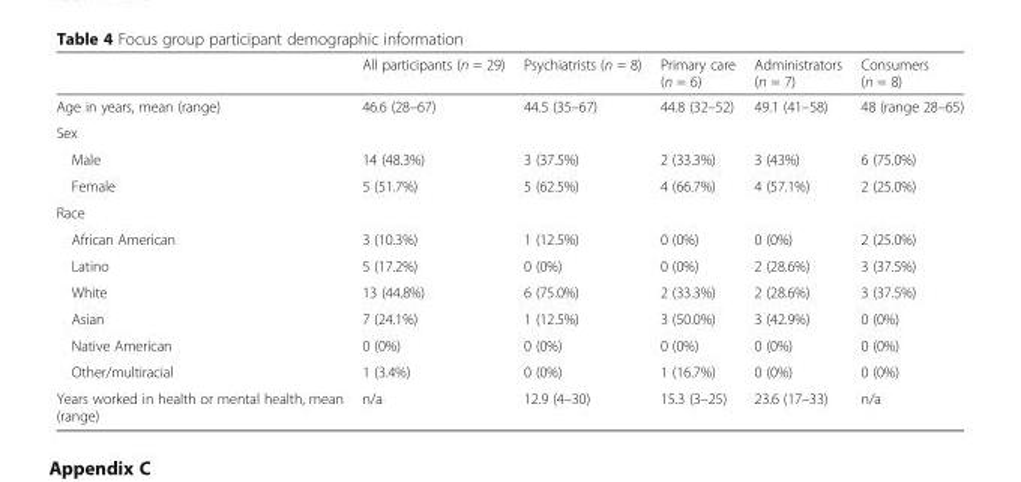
<table><thead><tr><td></td><td>All participants (n = 29)</td><td>Psychiatrists (n = 8)</td><td>Primary care (n = 6)</td><td>Administrators (n = 7)</td><td>Consumers (n = 8)</td></tr></thead><tbody><tr><td>Age in years, mean (range)</td><td>46.6 (28–67)</td><td>44.5 (35–67)</td><td>44.8 (32–52)</td><td>49.1 (41–58)</td><td>48 (range 28–65)</td></tr><tr><td colspan="6">Sex</td></tr><tr><td>Male</td><td>14 (48.3%)</td><td>3 (37.5%)</td><td>2 (33.3%)</td><td>3 (43%)</td><td>6 (75.0%)</td></tr><tr><td>Female</td><td>5 (51.7%)</td><td>5 (62.5%)</td><td>4 (66.7%)</td><td>4 (57.1%)</td><td>2 (25.0%)</td></tr><tr><td colspan="6">Race</td></tr><tr><td>African American</td><td>3 (10.3%)</td><td>1 (12.5%)</td><td>0 (0%)</td><td>0 (0%)</td><td>2 (25.0%)</td></tr><tr><td>Latino</td><td>5 (17.2%)</td><td>0 (0%)</td><td>0 (0%)</td><td>2 (28.6%)</td><td>3 (37.5%)</td></tr><tr><td>White</td><td>13 (44.8%)</td><td>6 (75.0%)</td><td>2 (33.3%)</td><td>2 (28.6%)</td><td>3 (37.5%)</td></tr><tr><td>Asian</td><td>7 (24.1%)</td><td>1 (12.5%)</td><td>3 (50.0%)</td><td>3 (42.9%)</td><td>0 (0%)</td></tr><tr><td>Native American</td><td>0 (0%)</td><td>0 (0%)</td><td>0 (0%)</td><td>0 (0%)</td><td>0 (0%)</td></tr><tr><td>Other/multiracial</td><td>1 (3.4%)</td><td>0 (0%)</td><td>1 (16.7%)</td><td>0 (0%)</td><td>0 (0%)</td></tr><tr><td>Years worked in health or mental health, mean (range)</td><td>n/a</td><td>12.9 (4–30)</td><td>15.3 (3–25)</td><td>23.6 (17–33)</td><td>n/a</td></tr></tbody></table>